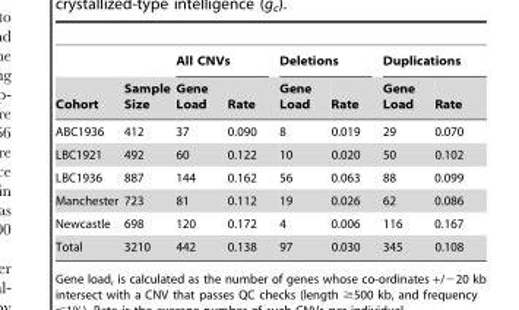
<table><thead><tr><td rowspan="2">Cohort</td><td rowspan="2">Sample Size</td><td colspan="2">All CNVs</td><td colspan="2">Deletions</td><td colspan="2">Duplications</td></tr><tr><td>Gene Load</td><td>Rate</td><td>Gene Load</td><td>Rate</td><td>Gene Load</td><td>Rate</td></tr></thead><tbody><tr><td>ABC1936</td><td>412</td><td>37</td><td>0.090</td><td>8</td><td>0.019</td><td>29</td><td>0.070</td></tr><tr><td>LBC1921</td><td>492</td><td>60</td><td>0.122</td><td>10</td><td>0.020</td><td>50</td><td>0.102</td></tr><tr><td>LBC1936</td><td>887</td><td>144</td><td>0.162</td><td>56</td><td>0.063</td><td>88</td><td>0.099</td></tr><tr><td>Manchester</td><td>723</td><td>81</td><td>0.112</td><td>19</td><td>0.026</td><td>62</td><td>0.086</td></tr><tr><td>Newcastle</td><td>698</td><td>120</td><td>0.172</td><td>4</td><td>0.006</td><td>116</td><td>0.167</td></tr><tr><td>Total</td><td>3210</td><td>442</td><td>0.138</td><td>97</td><td>0.030</td><td>345</td><td>0.108</td></tr></tbody></table>